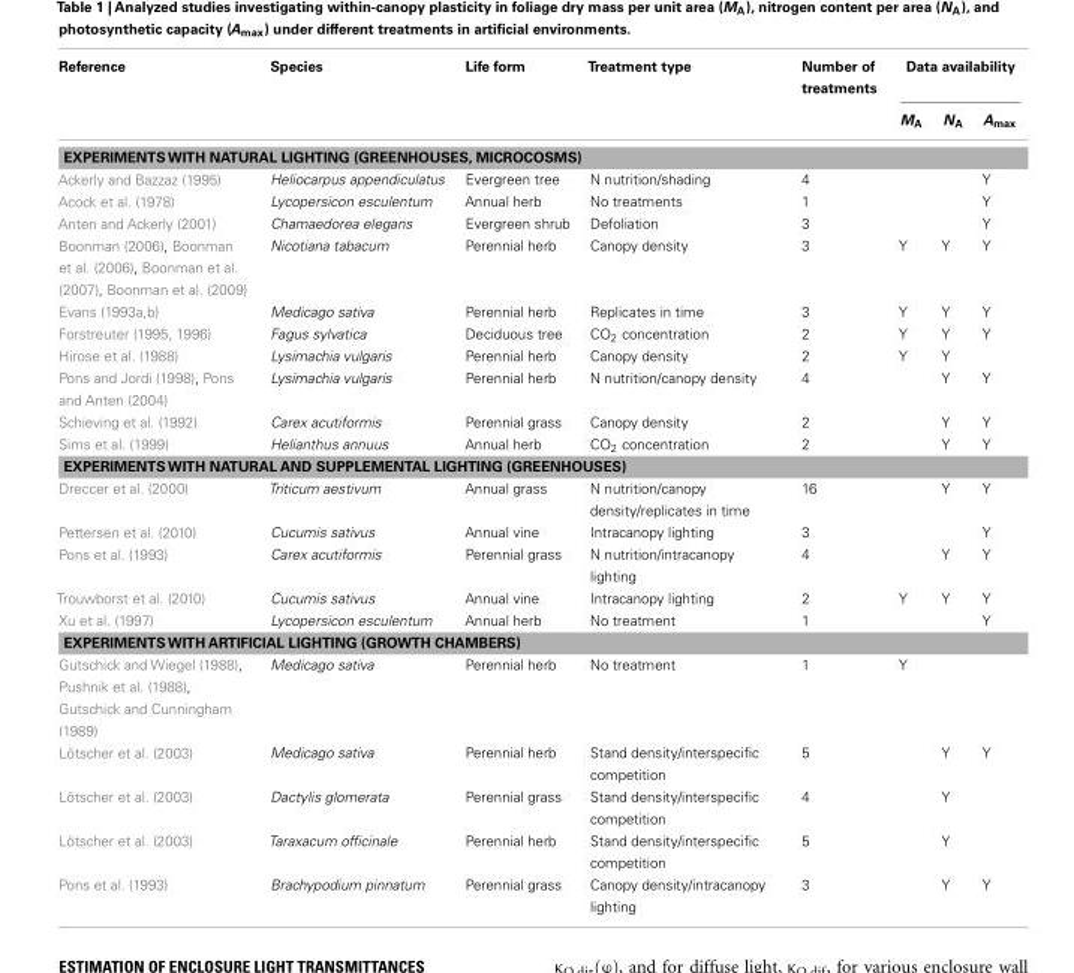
<table><thead><tr><td rowspan="2">Reference</td><td rowspan="2">Species</td><td rowspan="2">Life form</td><td rowspan="2">Treatment type</td><td rowspan="2">Number of treatments</td><td colspan="3">Data availability</td></tr><tr><td>M<sub>A</sub></td><td>N<sub>A</sub></td><td>A<sub>max</sub></td></tr></thead><tbody><tr><td colspan="8">EXPERIMENTS WITH NATURAL LIGHTING (GREENHOUSES, MICROCOSMS)</td></tr><tr><td>Ackerly and Bazzaz (1995)</td><td>Heliocarpus appendiculatus</td><td>Evergreen tree</td><td>N nutrition/shading</td><td>4</td><td></td><td></td><td>Y</td></tr><tr><td>Acock et al. (1978)</td><td>Lycopersicon esculentum</td><td>Annual herb</td><td>No treatments</td><td>1</td><td></td><td></td><td>Y</td></tr><tr><td>Anten and Ackerly (2001)</td><td>Chamaedorea elegans</td><td>Evergreen shrub</td><td>Defoliation</td><td>3</td><td></td><td></td><td>Y</td></tr><tr><td>Boonman (2006), Boonman et al. (2006), Boonman et al. (2007), Boonman et al. (2009)</td><td>Nicotiana tabacum</td><td>Perennial herb</td><td>Canopy density</td><td>3</td><td>Y</td><td>Y</td><td>Y</td></tr><tr><td>Evans (1993a,b)</td><td>Medicago sativa</td><td>Perennial herb</td><td>Replicates in time</td><td>3</td><td>Y</td><td>Y</td><td>Y</td></tr><tr><td>Forstreuter (1995, 1996)</td><td>Fagus sylvatica</td><td>Deciduous tree</td><td>CO<sub>2</sub> concentration</td><td>2</td><td>Y</td><td>Y</td><td>Y</td></tr><tr><td>Hirose et al. (1988)</td><td>Lysimachia vulgaris</td><td>Perennial herb</td><td>Canopy density</td><td>2</td><td>Y</td><td>Y</td><td></td></tr><tr><td>Pons and Jordi (1998), Pons and Anten (2004)</td><td>Lysimachia vulgaris</td><td>Perennial herb</td><td>N nutrition/canopy density</td><td>4</td><td></td><td>Y</td><td>Y</td></tr><tr><td>Schieving et al. (1992)</td><td>Carex acutiformis</td><td>Perennial grass</td><td>Canopy density</td><td>2</td><td></td><td>Y</td><td>Y</td></tr><tr><td>Sims et al. (1999)</td><td>Helianthus annuus</td><td>Annual herb</td><td>CO<sub>2</sub> concentration</td><td>2</td><td></td><td>Y</td><td>Y</td></tr><tr><td colspan="8">EXPERIMENTS WITH NATURAL AND SUPPLEMENTAL LIGHTING (GREENHOUSES)</td></tr><tr><td>Dreccer et al. (2000)</td><td>Triticum aestivum</td><td>Annual grass</td><td>N nutrition/canopy density/replicates in time</td><td>16</td><td></td><td>Y</td><td>Y</td></tr><tr><td>Pettersen et al. (2010)</td><td>Cucumis sativus</td><td>Annual vine</td><td>Intracanopy lighting</td><td>3</td><td></td><td></td><td>Y</td></tr><tr><td>Pons et al. (1993)</td><td>Carex acutiformis</td><td>Perennial grass</td><td>N nutrition/intracanopy lighting</td><td>4</td><td></td><td>Y</td><td>Y</td></tr><tr><td>Trouwborst et al. (2010)</td><td>Cucumis sativus</td><td>Annual vine</td><td>Intracanopy lighting</td><td>2</td><td>Y</td><td>Y</td><td>Y</td></tr><tr><td>Xu et al. (1997)</td><td>Lycopersicon esculentum</td><td>Annual herb</td><td>No treatment</td><td>1</td><td></td><td></td><td>Y</td></tr><tr><td colspan="8">EXPERIMENTS WITH ARTIFICIAL LIGHTING (GROWTH CHAMBERS)</td></tr><tr><td>Gutschick and Wiegel (1988), Pushnik et al. (1988), Gutschick and Cunningham (1989)</td><td>Medicago sativa</td><td>Perennial herb</td><td>No treatment</td><td>1</td><td>Y</td><td></td><td></td></tr><tr><td>Lötscher et al. (2003)</td><td>Medicago sativa</td><td>Perennial herb</td><td>Stand density/interspecific competition</td><td>5</td><td></td><td>Y</td><td>Y</td></tr><tr><td>Lötscher et al. (2003)</td><td>Dactylis glomerata</td><td>Perennial grass</td><td>Stand density/interspecific competition</td><td>4</td><td></td><td>Y</td><td></td></tr><tr><td>Lötscher et al. (2003)</td><td>Taraxacum officinale</td><td>Perennial herb</td><td>Stand density/interspecific competition</td><td>5</td><td></td><td>Y</td><td></td></tr><tr><td>Pons et al. (1993)</td><td>Brachypodium pinnatum</td><td>Perennial grass</td><td>Canopy density/intracanopy lighting</td><td>3</td><td></td><td>Y</td><td>Y</td></tr></tbody></table>